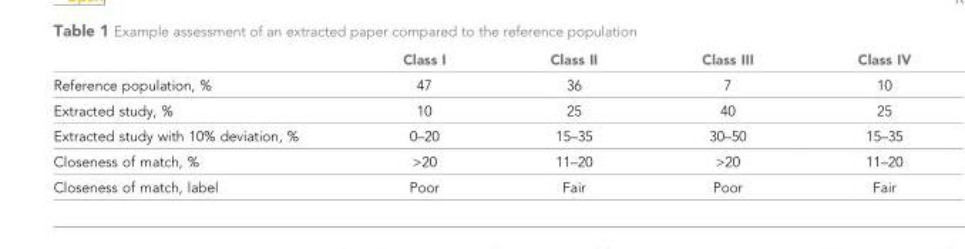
<table><thead><tr><td></td><td>Class I</td><td>Class II</td><td>Class III</td><td>Class IV</td></tr></thead><tbody><tr><td>Reference population, %</td><td>47</td><td>36</td><td>7</td><td>10</td></tr><tr><td>Extracted study, %</td><td>10</td><td>25</td><td>40</td><td>25</td></tr><tr><td>Extracted study with 10% deviation, %</td><td>0–20</td><td>15–35</td><td>30–50</td><td>15–35</td></tr><tr><td>Closeness of match, %</td><td>&gt;20</td><td>11–20</td><td>&gt;20</td><td>11–20</td></tr><tr><td>Closeness of match, label</td><td>Poor</td><td>Fair</td><td>Poor</td><td>Fair</td></tr></tbody></table>